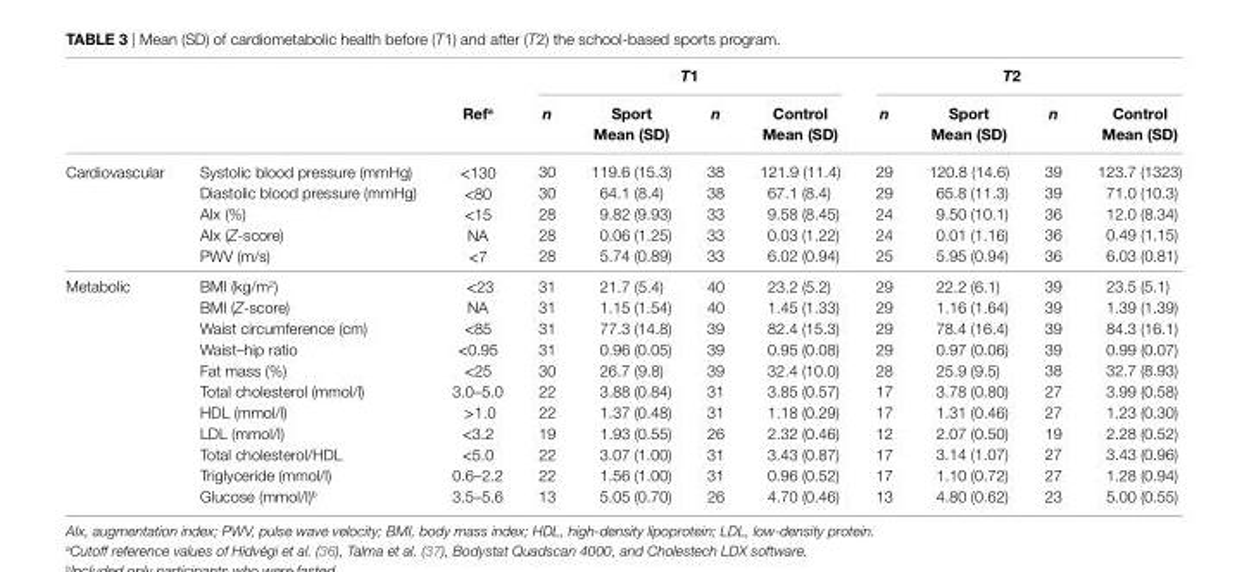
<table><thead><tr><td rowspan="2"></td><td rowspan="2"></td><td rowspan="2">ref<sup>a</sup></td><td colspan="4">T1</td><td colspan="4">T2</td></tr><tr><td>n</td><td>Sport Mean (SD)</td><td>n</td><td>Control Mean (SD)</td><td>n</td><td>Sport Mean (SD)</td><td>n</td><td>Control Mean (SD)</td></tr></thead><tbody><tr><td>Cardiovascular</td><td>Systolic blood pressure (mmHg) Diastolic blood pressure (mmHg) AIx (%) AIx (Z-score) PWV (m/s)</td><td>&lt;130 &lt;80 &lt;15 NA &lt;7</td><td>30 30 28 28 28</td><td>119.6 (15.3) 64.1 (8.4) 9.82 (9.93) 0.06 (1.25) 5.74 (0.89)</td><td>38 38 33 33 33</td><td>121.9 (11.4) 67.1 (8.4) 9.58 (8.45) 0.03 (1.22) 6.02 (0.94)</td><td>29 29 24 24 25</td><td>120.8 (14.6) 65.8 (11.3) 9.50 (10.1) 0.01 (1.16) 5.95 (0.94)</td><td>39 39 36 36 36</td><td>123.7 (1323) 71.0 (10.3) 12.0 (8.34) 0.49 (1.15) 6.03 (0.81)</td></tr><tr><td>Metabolic</td><td>BMI (kg/m<sup>2</sup>) BMI (Z-score) Waist circumference (cm) Waist–hip ratio Fat mass (%) Total cholesterol (mmol/l) HDL (mmol/l) LDL (mmol/l) Total cholesterol/HDL Triglyceride (mmol/l) Glucose (mmol/l)<sup>b</sup></td><td>&lt;23 NA &lt;85 &lt;0.95 &lt;25 3.0–5.0 &gt;1.0 &lt;3.2 &lt;5.0 0.6–2.2 3.5–5.6</td><td>31 31 31 31 30 22 22 19 22 22 13</td><td>21.7 (5.4) 1.15 (1.54) 77.3 (14.8) 0.96 (0.05) 26.7 (9.8) 3.88 (0.84) 1.37 (0.48) 1.93 (0.55) 3.07 (1.00) 1.56 (1.00) 5.05 (0.70)</td><td>40 40 39 39 39 31 31 26 31 31 26</td><td>23.2 (5.2) 1.45 (1.33) 82.4 (15.3) 0.95 (0.08) 32.4 (10.0) 3.85 (0.57) 1.18 (0.29) 2.32 (0.46) 3.43 (0.87) 0.96 (0.52) 4.70 (0.46)</td><td>29 29 29 29 28 17 17 12 17 17 13</td><td>22.2 (6.1) 1.16 (1.64) 78.4 (16.4) 0.97 (0.06) 25.9 (9.5) 3.78 (0.80) 1.31 (0.46) 2.07 (0.50) 3.14 (1.07) 1.10 (0.72) 4.80 (0.62)</td><td>39 39 39 39 38 27 27 19 27 27 23</td><td>23.5 (5.1) 1.39 (1.39) 84.3 (16.1) 0.99 (0.07) 32.7 (8.93) 3.99 (0.58) 1.23 (0.30) 2.28 (0.52) 3.43 (0.96) 1.28 (0.94) 5.00 (0.55)</td></tr></tbody></table>